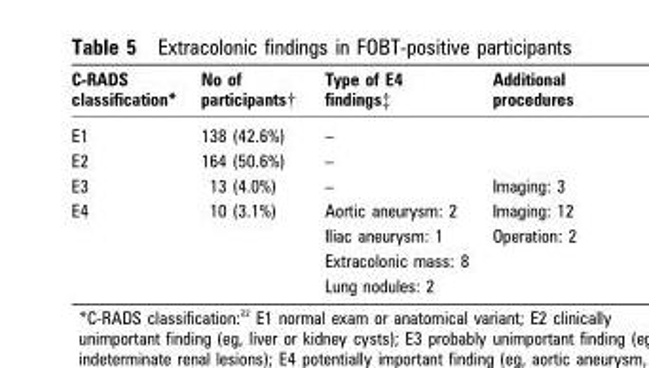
<table><thead><tr><td>C-RADS classification*</td><td>No of participants†</td><td>Type of E4 findings‡</td><td>Additional procedures</td></tr></thead><tbody><tr><td>E1</td><td>138 (42.6%)</td><td>–</td><td></td></tr><tr><td>E2</td><td>164 (50.6%)</td><td>–</td><td></td></tr><tr><td>E3</td><td>13 (4.0%)</td><td>–</td><td>Imaging: 3</td></tr><tr><td rowspan="4">E4</td><td>10 (3.1%)</td><td>Aortic aneurysm: 2</td><td>Imaging: 12</td></tr><tr><td></td><td>Iliac aneurysm: 1</td><td>Operation: 2</td></tr><tr><td></td><td>Extracolonic mass: 8</td><td></td></tr><tr><td></td><td>Lung nodules: 2</td><td></td></tr></tbody></table>